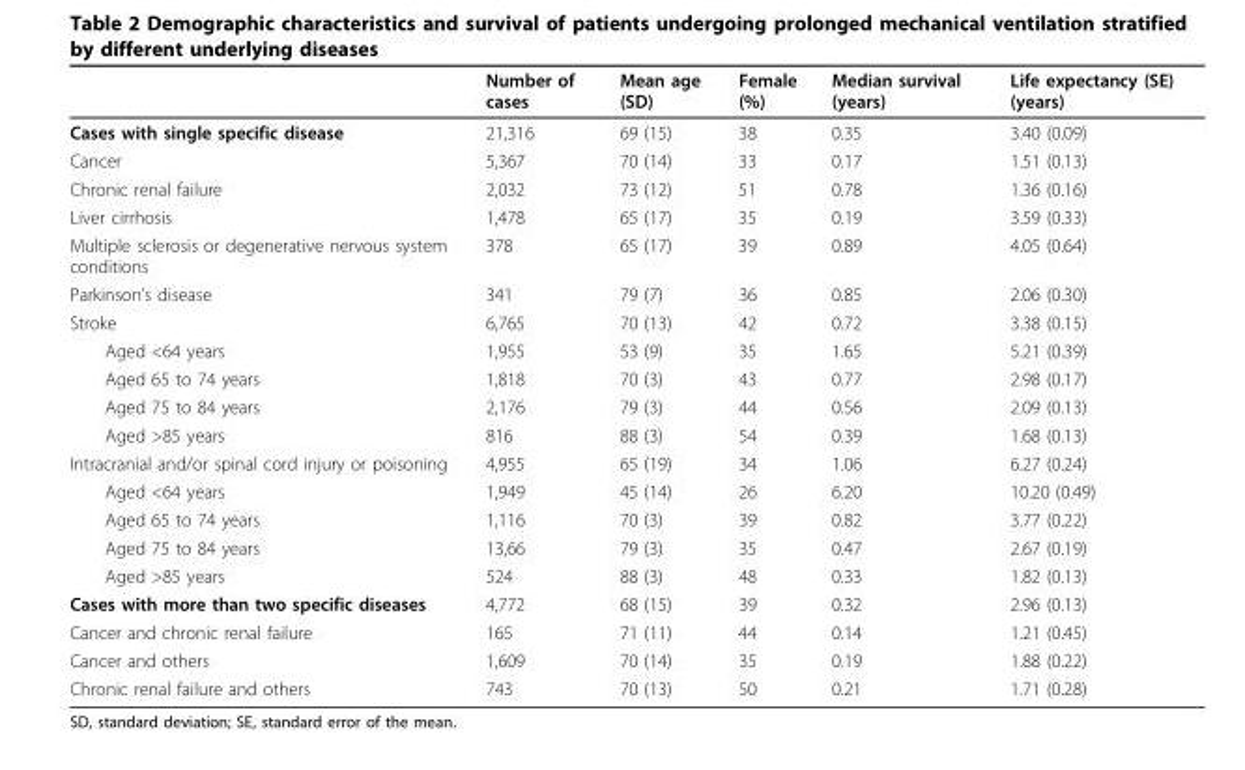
<table><thead><tr><td></td><td>Number of cases</td><td>Mean age (SD)</td><td>Female (%)</td><td>Median survival (years)</td><td>Life expectancy (SE) (years)</td></tr></thead><tbody><tr><td>Cases with single specific disease</td><td>21,316</td><td>69 (15)</td><td>38</td><td>0.35</td><td>3.40 (0.09)</td></tr><tr><td>Cancer</td><td>5,367</td><td>70 (14)</td><td>33</td><td>0.17</td><td>1.51 (0.13)</td></tr><tr><td>Chronic renal failure</td><td>2,032</td><td>73 (12)</td><td>51</td><td>0.78</td><td>1.36 (0.16)</td></tr><tr><td>Liver cirrhosis</td><td>1,478</td><td>65 (17)</td><td>35</td><td>0.19</td><td>3.59 (0.33)</td></tr><tr><td>Multiple sclerosis or degenerative nervous system conditions</td><td>378</td><td>65 (17)</td><td>39</td><td>0.89</td><td>4.05 (0.64)</td></tr><tr><td>Parkinson’s disease</td><td>341</td><td>79 (7)</td><td>36</td><td>0.85</td><td>2.06 (0.30)</td></tr><tr><td>Stroke</td><td>6,765</td><td>70 (13)</td><td>42</td><td>0.72</td><td>3.38 (0.15)</td></tr><tr><td>Aged &lt;64 years</td><td>1,955</td><td>53 (9)</td><td>35</td><td>1.65</td><td>5.21 (0.39)</td></tr><tr><td>Aged 65 to 74 years</td><td>1,818</td><td>70 (3)</td><td>43</td><td>0.77</td><td>2.98 (0.17)</td></tr><tr><td>Aged 75 to 84 years</td><td>2,176</td><td>79 (3)</td><td>44</td><td>0.56</td><td>2.09 (0.13)</td></tr><tr><td>Aged &gt;85 years</td><td>816</td><td>88 (3)</td><td>54</td><td>0.39</td><td>1.68 (0.13)</td></tr><tr><td>Intracranial and/or spinal cord injury or poisoning</td><td>4,955</td><td>65 (19)</td><td>34</td><td>1.06</td><td>6.27 (0.24)</td></tr><tr><td>Aged &lt;64 years</td><td>1,949</td><td>45 (14)</td><td>26</td><td>6.20</td><td>10.20 (0.49)</td></tr><tr><td>Aged 65 to 74 years</td><td>1,116</td><td>70 (3)</td><td>39</td><td>0.82</td><td>3.77 (0.22)</td></tr><tr><td>Aged 75 to 84 years</td><td>13,66</td><td>79 (3)</td><td>35</td><td>0.47</td><td>2.67 (0.19)</td></tr><tr><td>Aged &gt;85 years</td><td>524</td><td>88 (3)</td><td>48</td><td>0.33</td><td>1.82 (0.13)</td></tr><tr><td>Cases with more than two specific diseases</td><td>4,772</td><td>68 (15)</td><td>39</td><td>0.32</td><td>2.96 (0.13)</td></tr><tr><td>Cancer and chronic renal failure</td><td>165</td><td>71 (11)</td><td>44</td><td>0.14</td><td>1.21 (0.45)</td></tr><tr><td>Cancer and others</td><td>1,609</td><td>70 (14)</td><td>35</td><td>0.19</td><td>1.88 (0.22)</td></tr><tr><td>Chronic renal failure and others</td><td>743</td><td>70 (13)</td><td>50</td><td>0.21</td><td>1.71 (0.28)</td></tr></tbody></table>